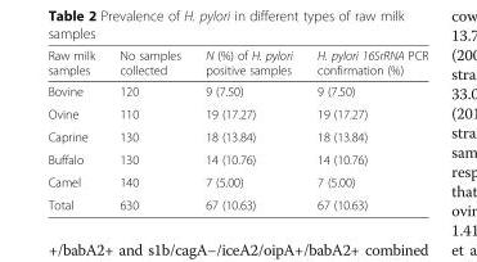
<table><thead><tr><td>Raw milk samples</td><td>No samples collected</td><td>N (%) of H. pylori positive samples</td><td>H. pylori 16SrRNA PCR confirmation (%)</td></tr></thead><tbody><tr><td>Bovine</td><td>120</td><td>9 (7.50)</td><td>9 (7.50)</td></tr><tr><td>Ovine</td><td>110</td><td>19 (17.27)</td><td>19 (17.27)</td></tr><tr><td>Caprine</td><td>130</td><td>18 (13.84)</td><td>18 (13.84)</td></tr><tr><td>Buffalo</td><td>130</td><td>14 (10.76)</td><td>14 (10.76)</td></tr><tr><td>Camel</td><td>140</td><td>7 (5.00)</td><td>7 (5.00)</td></tr><tr><td>Total</td><td>630</td><td>67 (10.63)</td><td>67 (10.63)</td></tr></tbody></table>